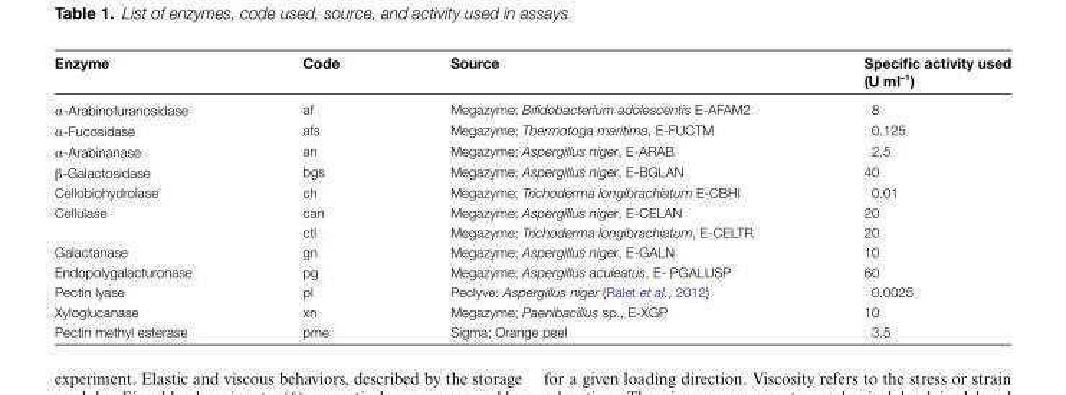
<table><thead><tr><td>Enzyme</td><td>Code</td><td>Source</td><td>Specific activity used (U ml<sup>–1</sup>)</td></tr></thead><tbody><tr><td>α-Arabinofuranosidase</td><td>af</td><td>Megazyme; Bifidobacterium adolescentis E-AFAM2</td><td>8</td></tr><tr><td>α-Fucosidase</td><td>afs</td><td>Megazyme; Thermotoga maritima, E-FUCTM</td><td>0.125</td></tr><tr><td>α-Arabinanase</td><td>an</td><td>Megazyme; Aspergillus niger, E-ARAB</td><td>2.5</td></tr><tr><td>β-Galactosidase</td><td>bgs</td><td>Megazyme; Aspergillus niger, E-BGLAN</td><td>40</td></tr><tr><td>Cellobiohydrolase</td><td>ch</td><td>Megazyme; Trichoderma longibrachiatum E-CBHI</td><td>0.01</td></tr><tr><td rowspan="2">Cellulase</td><td>can</td><td>Megazyme; Aspergillus niger, E-CELAN</td><td>20</td></tr><tr><td>ctl</td><td>Megazyme; Trichoderma longibrachiatum, E-CELTR</td><td>20</td></tr><tr><td>Galactanase</td><td>gn</td><td>Megazyme; Aspergillus niger, E-GALN</td><td>10</td></tr><tr><td>Endopolygalacturonase</td><td>pg</td><td>Megazyme; Aspergillus aculeatus, E- PGALUSP</td><td>60</td></tr><tr><td>Pectin lyase</td><td>pl</td><td>Peclyve: Aspergillus niger (Ralet et al., 2012)</td><td>0.0025</td></tr><tr><td>Xyloglucanase</td><td>xn</td><td>Megazyme; Paenibacillus sp., E-XGP</td><td>10</td></tr><tr><td>Pectin methyl esterase</td><td>pme</td><td>Sigma; Orange peel</td><td>3.5</td></tr></tbody></table>